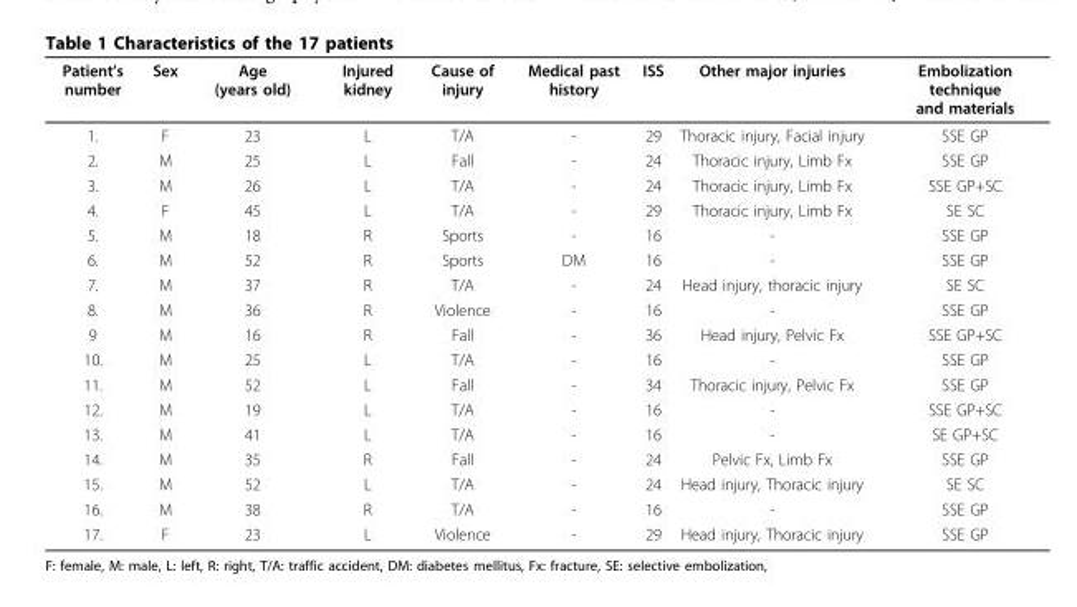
<table><thead><tr><td>Patient’s number</td><td>Sex</td><td>Age (years old)</td><td>Injured kidney</td><td>Cause of injury</td><td>Medical past history</td><td>ISS</td><td>Other major injuries</td><td>Embolization technique and materials</td></tr></thead><tbody><tr><td>1.</td><td>F</td><td>23</td><td>L</td><td>T/A</td><td>-</td><td>29</td><td>Thoracic injury, Facial injury</td><td>SSE GP</td></tr><tr><td>2.</td><td>M</td><td>25</td><td>L</td><td>Fall</td><td>-</td><td>24</td><td>Thoracic injury, Limb Fx</td><td>SSE GP</td></tr><tr><td>3.</td><td>M</td><td>26</td><td>L</td><td>T/A</td><td>-</td><td>24</td><td>Thoracic injury, Limb Fx</td><td>SSE GP+SC</td></tr><tr><td>4.</td><td>F</td><td>45</td><td>L</td><td>T/A</td><td>-</td><td>29</td><td>Thoracic injury, Limb Fx</td><td>SE SC</td></tr><tr><td>5.</td><td>M</td><td>18</td><td>R</td><td>Sports</td><td>-</td><td>16</td><td>-</td><td>SSE GP</td></tr><tr><td>6.</td><td>M</td><td>52</td><td>R</td><td>Sports</td><td>DM</td><td>16</td><td>-</td><td>SSE GP</td></tr><tr><td>7.</td><td>M</td><td>37</td><td>R</td><td>T/A</td><td>-</td><td>24</td><td>Head injury, thoracic injury</td><td>SE SC</td></tr><tr><td>8.</td><td>M</td><td>36</td><td>R</td><td>Violence</td><td>-</td><td>16</td><td>-</td><td>SSE GP</td></tr><tr><td>9</td><td>M</td><td>16</td><td>R</td><td>Fall</td><td>-</td><td>36</td><td>Head injury, Pelvic Fx</td><td>SSE GP+SC</td></tr><tr><td>10.</td><td>M</td><td>25</td><td>L</td><td>T/A</td><td>-</td><td>16</td><td>-</td><td>SSE GP</td></tr><tr><td>11.</td><td>M</td><td>52</td><td>L</td><td>Fall</td><td>-</td><td>34</td><td>Thoracic injury, Pelvic Fx</td><td>SSE GP</td></tr><tr><td>12.</td><td>M</td><td>19</td><td>L</td><td>T/A</td><td>-</td><td>16</td><td>-</td><td>SSE GP+SC</td></tr><tr><td>13.</td><td>M</td><td>41</td><td>L</td><td>T/A</td><td>-</td><td>16</td><td>-</td><td>SE GP+SC</td></tr><tr><td>14.</td><td>M</td><td>35</td><td>R</td><td>Fall</td><td>-</td><td>24</td><td>Pelvic Fx, Limb Fx</td><td>SSE GP</td></tr><tr><td>15.</td><td>M</td><td>52</td><td>L</td><td>T/A</td><td>-</td><td>24</td><td>Head injury, Thoracic injury</td><td>SE SC</td></tr><tr><td>16.</td><td>M</td><td>38</td><td>R</td><td>T/A</td><td>-</td><td>16</td><td>-</td><td>SSE GP</td></tr><tr><td>17.</td><td>F</td><td>23</td><td>L</td><td>Violence</td><td>-</td><td>29</td><td>Head injury, Thoracic injury</td><td>SSE GP</td></tr></tbody></table>